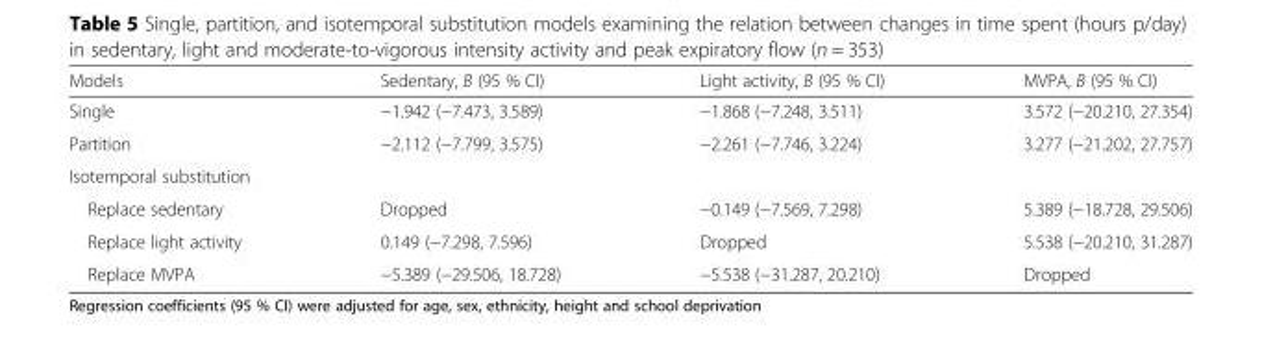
<table><thead><tr><td>Models</td><td>Sedentary, B (95 % CI)</td><td>Light activity, B (95 % CI)</td><td>MVPA, B (95 % CI)</td></tr></thead><tbody><tr><td>Single</td><td>−1.942 (−7.473, 3.589)</td><td>−1.868 (−7.248, 3.511)</td><td>3.572 (−20.210, 27.354)</td></tr><tr><td>Partition</td><td>−2.112 (−7.799, 3.575)</td><td>−2.261 (−7.746, 3.224)</td><td>3.277 (−21.202, 27.757)</td></tr><tr><td colspan="4">Isotemporal substitution</td></tr><tr><td>Replace sedentary</td><td>Dropped</td><td>−0.149 (−7.569, 7.298)</td><td>5.389 (−18.728, 29.506)</td></tr><tr><td>Replace light activity</td><td>0.149 (−7.298, 7.596)</td><td>Dropped</td><td>5.538 (−20.210, 31.287)</td></tr><tr><td>Replace MVPA</td><td>−5.389 (−29.506, 18.728)</td><td>−5.538 (−31.287, 20.210)</td><td>Dropped</td></tr></tbody></table>